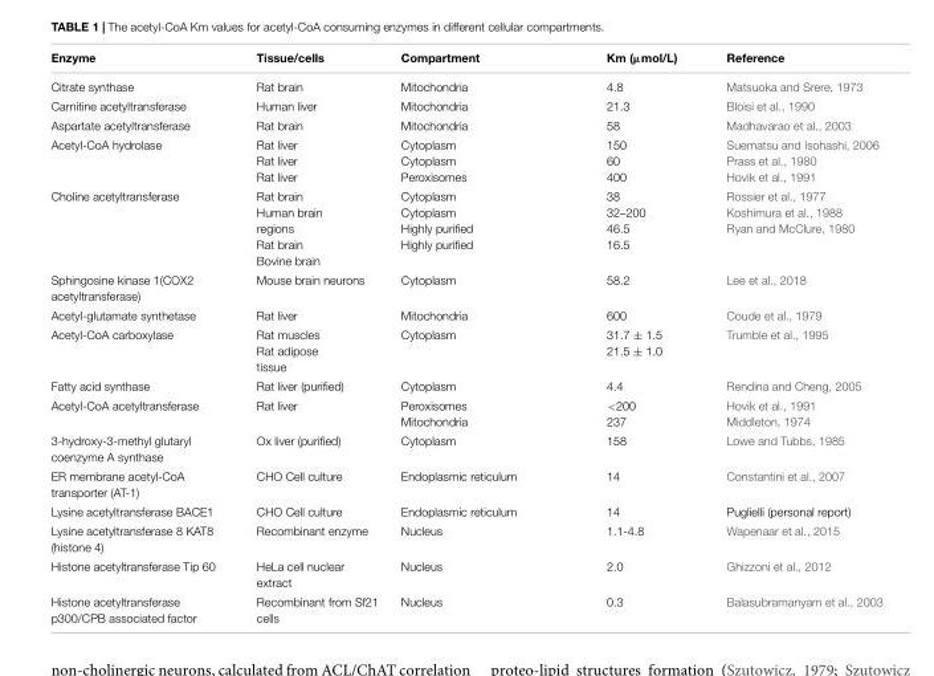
<table><thead><tr><td>Enzyme</td><td>Tissue/cells</td><td>Compartment</td><td>Km (µmol/L)</td><td>Reference</td></tr></thead><tbody><tr><td>Citrate synthase</td><td>Rat brain</td><td>Mitochondria</td><td>4.8</td><td>Matsuoka and Srere, 1973</td></tr><tr><td>Carnitine acetyltransferase</td><td>Human liver</td><td>Mitochondria</td><td>21.3</td><td>Bloisi et al., 1990</td></tr><tr><td>Aspartate acetyltransferase</td><td>Rat brain</td><td>Mitochondria</td><td>58</td><td>Madhavarao et al., 2003</td></tr><tr><td>Acetyl-CoA hydrolase</td><td>Rat liver Rat liver Rat liver</td><td>Cytoplasm Cytoplasm Peroxisomes</td><td>150 60 400</td><td>Suematsu and Isohashi, 2006 Prass et al., 1980 Hovik et al., 1991</td></tr><tr><td>Choline acetyltransferase</td><td>Rat brain Human brain regions Rat brain Bovine brain</td><td>Cytoplasm Cytoplasm Highly purified Highly purified</td><td>38 32–200 46.5 16.5</td><td>Rossier et al., 1977 Koshimura et al., 1988 Ryan and McClure, 1980</td></tr><tr><td>Sphingosine kinase 1(COX2 acetyltransferase)</td><td>Mouse brain neurons</td><td>Cytoplasm</td><td>58.2</td><td>Lee et al., 2018</td></tr><tr><td>Acetyl-glutamate synthetase</td><td>Rat liver</td><td>Mitochondria</td><td>600</td><td>Coude et al., 1979</td></tr><tr><td>Acetyl-CoA carboxylase</td><td>Rat muscles Rat adipose tissue</td><td>Cytoplasm</td><td>31.7 ± 1.5 21.5 ± 1.0</td><td>Trumble et al., 1995</td></tr><tr><td>Fatty acid synthase</td><td>Rat liver (purified)</td><td>Cytoplasm</td><td>4.4</td><td>Rendina and Cheng, 2005</td></tr><tr><td>Acetyl-CoA acetyltransferase</td><td>Rat liver</td><td>Peroxisomes Mitochondria</td><td>&lt;200 237</td><td>Hovik et al., 1991 Middleton, 1974</td></tr><tr><td>3-hydroxy-3-methyl glutaryl coenzyme A synthase</td><td>Ox liver (purified)</td><td>Cytoplasm</td><td>158</td><td>Lowe and Tubbs, 1985</td></tr><tr><td>ER membrane acetyl-CoA transporter (AT-1)</td><td>CHO Cell culture</td><td>Endoplasmic reticulum</td><td>14</td><td>Constantini et al., 2007</td></tr><tr><td>Lysine acetyltransferase BACE1</td><td>CHO Cell culture</td><td>Endoplasmic reticulum</td><td>14</td><td>Puglielli (personal report)</td></tr><tr><td>Lysine acetyltransferase 8 KAT8 (histone 4)</td><td>Recombinant enzyme</td><td>Nucleus</td><td>1.1-4.8</td><td>Wapenaar et al., 2015</td></tr><tr><td>Histone acetyltransferase Tip 60</td><td>HeLa cell nuclear extract</td><td>Nucleus</td><td>2.0</td><td>Ghizzoni et al., 2012</td></tr><tr><td>Histone acetyltransferase p300/CPB associated factor</td><td>Recombinant from Sf21 cells</td><td>Nucleus</td><td>0.3</td><td>Balasubramanyam et al., 2003</td></tr></tbody></table>